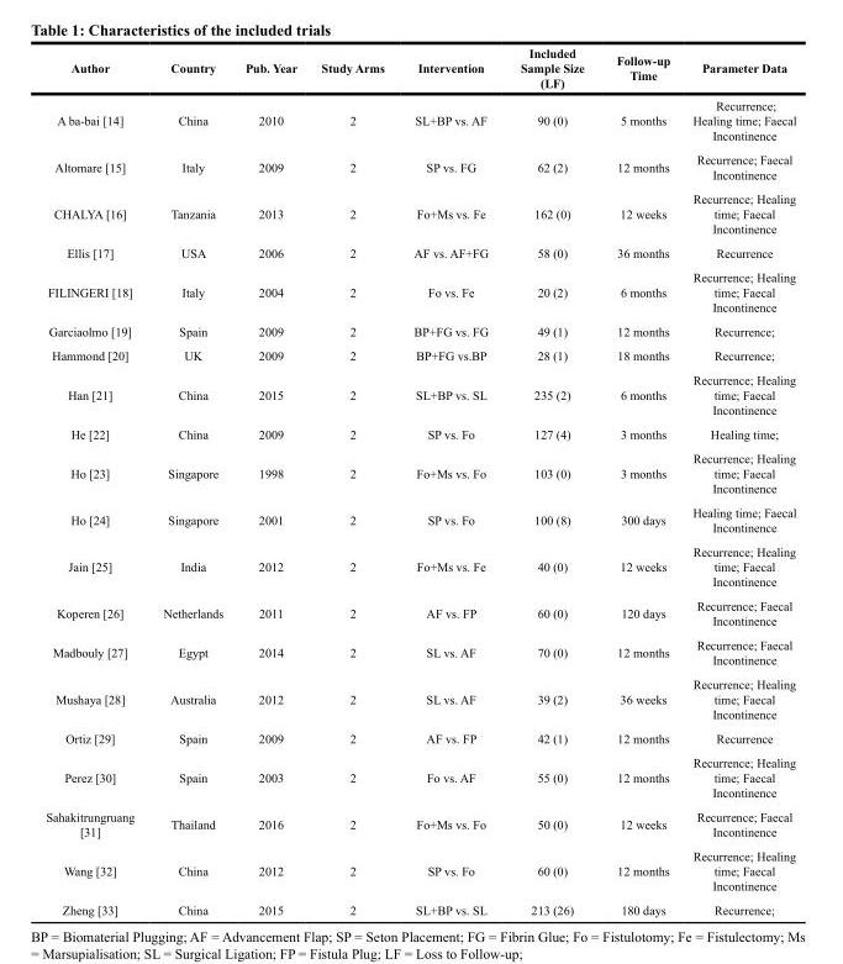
<table><thead><tr><td>Author</td><td>Country</td><td>Pub. Year</td><td>Study Arms</td><td>Intervention</td><td>Included Sample Size (LF)</td><td>Follow-up Time</td><td>Parameter Data</td></tr></thead><tbody><tr><td>A ba-bai [14]</td><td>China</td><td>2010</td><td>2</td><td>SL+BP vs. AF</td><td>90 (0)</td><td>5 months</td><td>Recurrence; Healing time; Faecal Incontinence</td></tr><tr><td>Altomare [15]</td><td>Italy</td><td>2009</td><td>2</td><td>SP vs. FG</td><td>62 (2)</td><td>12 months</td><td>Recurrence; Faecal Incontinence</td></tr><tr><td>CHALYA [16]</td><td>Tanzania</td><td>2013</td><td>2</td><td>Fo+Ms vs. Fe</td><td>162 (0)</td><td>12 weeks</td><td>Recurrence; Healing time; Faecal Incontinence</td></tr><tr><td>Ellis [17]</td><td>USA</td><td>2006</td><td>2</td><td>AF vs. AF+FG</td><td>58 (0)</td><td>36 months</td><td>Recurrence</td></tr><tr><td>FILINGERI [18]</td><td>Italy</td><td>2004</td><td>2</td><td>Fo vs. Fe</td><td>20 (2)</td><td>6 months</td><td>Recurrence; Healing time; Faecal Incontinence</td></tr><tr><td>Garciaolmo [19]</td><td>Spain</td><td>2009</td><td>2</td><td>BP+FG vs. FG</td><td>49 (1)</td><td>12 months</td><td>Recurrence;</td></tr><tr><td>Hammond [20]</td><td>UK</td><td>2009</td><td>2</td><td>BP+FG vs.BP</td><td>28 (1)</td><td>18 months</td><td>Recurrence;</td></tr><tr><td>Han [21]</td><td>China</td><td>2015</td><td>2</td><td>SL+BP vs. SL</td><td>235 (2)</td><td>6 months</td><td>Recurrence; Healing time; Faecal Incontinence</td></tr><tr><td>He [22]</td><td>China</td><td>2009</td><td>2</td><td>SP vs. Fo</td><td>127 (4)</td><td>3 months</td><td>Healing time;</td></tr><tr><td>Ho [23]</td><td>Singapore</td><td>1998</td><td>2</td><td>Fo+Ms vs. Fo</td><td>103 (0)</td><td>3 months</td><td>Recurrence; Healing time; Faecal Incontinence</td></tr><tr><td>Ho [24]</td><td>Singapore</td><td>2001</td><td>2</td><td>SP vs. Fo</td><td>100 (8)</td><td>300 days</td><td>Healing time; Faecal Incontinence</td></tr><tr><td>Jain [25]</td><td>India</td><td>2012</td><td>2</td><td>Fo+Ms vs. Fe</td><td>40 (0)</td><td>12 weeks</td><td>Recurrence; Healing time; Faecal Incontinence</td></tr><tr><td>Koperen [26]</td><td>Netherlands</td><td>2011</td><td>2</td><td>AF vs. FP</td><td>60 (0)</td><td>120 days</td><td>Recurrence; Faecal Incontinence</td></tr><tr><td>Madbouly [27]</td><td>Egypt</td><td>2014</td><td>2</td><td>SL vs. AF</td><td>70 (0)</td><td>12 months</td><td>Recurrence; Faecal Incontinence</td></tr><tr><td>Mushaya [28]</td><td>Australia</td><td>2012</td><td>2</td><td>SL vs. AF</td><td>39 (2)</td><td>36 weeks</td><td>Recurrence; Healing time; Faecal Incontinence</td></tr><tr><td>Ortiz [29]</td><td>Spain</td><td>2009</td><td>2</td><td>AF vs. FP</td><td>42 (1)</td><td>12 months</td><td>Recurrence</td></tr><tr><td>Perez [30]</td><td>Spain</td><td>2003</td><td>2</td><td>Fo vs. AF</td><td>55 (0)</td><td>12 months</td><td>Recurrence; Healing time; Faecal Incontinence</td></tr><tr><td>Sahakitrungruang [31]</td><td>Thailand</td><td>2016</td><td>2</td><td>Fo+Ms vs. Fo</td><td>50 (0)</td><td>12 weeks</td><td>Recurrence; Faecal Incontinence</td></tr><tr><td>Wang [32]</td><td>China</td><td>2012</td><td>2</td><td>SP vs. Fo</td><td>60 (0)</td><td>12 months</td><td>Recurrence; Healing time; Faecal Incontinence</td></tr><tr><td>Zheng [33]</td><td>China</td><td>2015</td><td>2</td><td>SL+BP vs. SL</td><td>213 (26)</td><td>180 days</td><td>Recurrence;</td></tr></tbody></table>